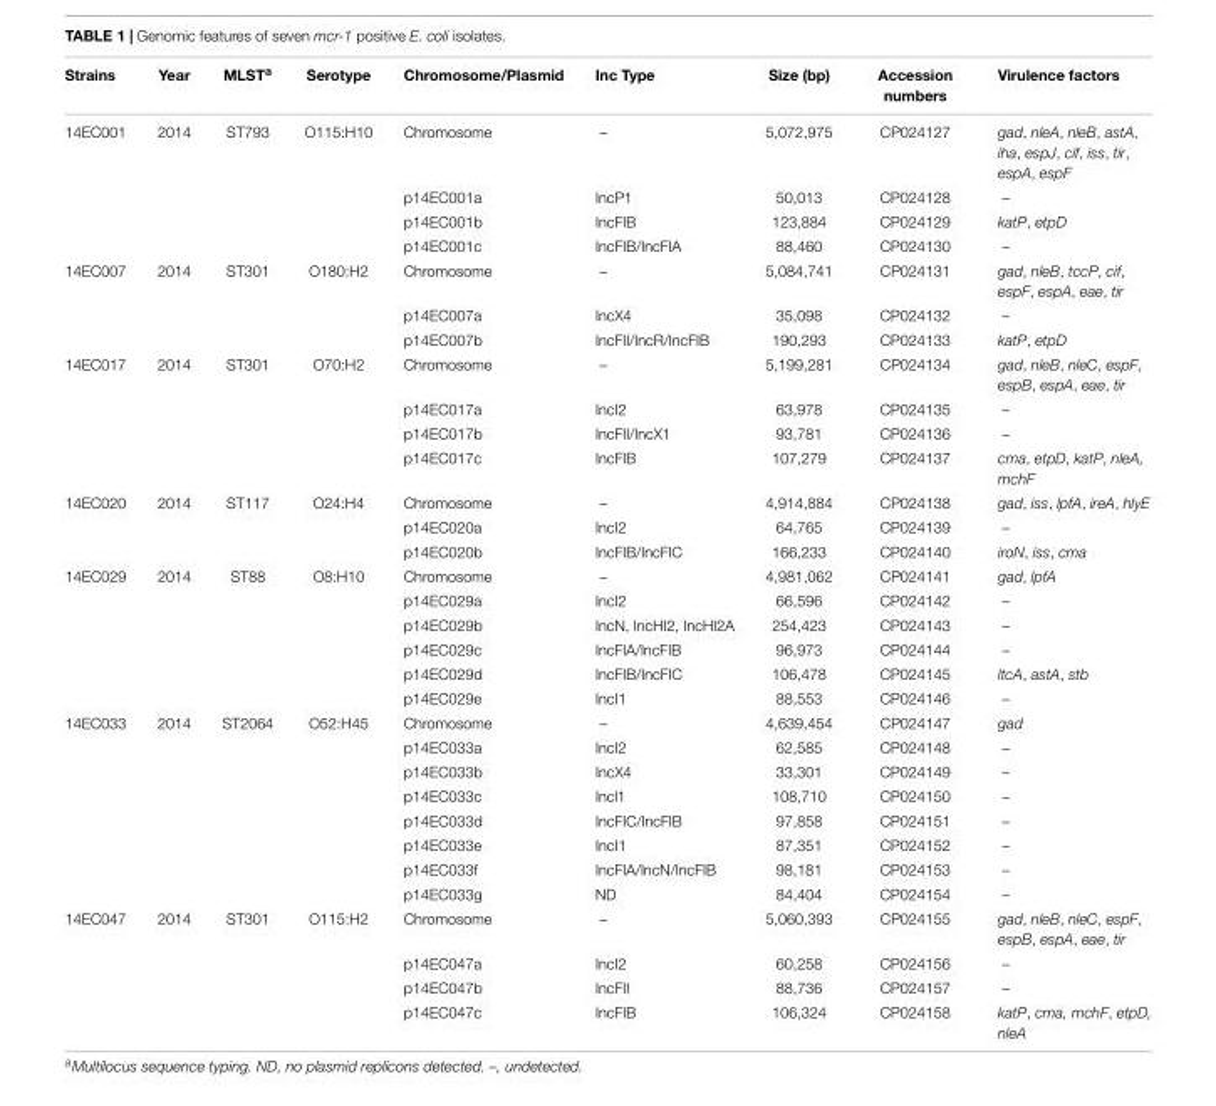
<table><thead><tr><td>Strains</td><td>Year</td><td>MLST<sup>a</sup></td><td>Serotype</td><td>Chromosome/Plasmid</td><td>Inc Type</td><td>Size (bp)</td><td>Accession numbers</td><td>Virulence factors</td></tr></thead><tbody><tr><td rowspan="4">14EC001</td><td>2014</td><td>ST793</td><td>O115:H10</td><td>Chromosome</td><td>–</td><td>5,072,975</td><td>CP024127</td><td>gad, nleA, nleB, astA, iha, espJ, cif, iss, tir, espA, espF</td></tr><tr><td></td><td></td><td></td><td>p14EC001a</td><td>IncP1</td><td>50,013</td><td>CP024128</td><td>–</td></tr><tr><td></td><td></td><td></td><td>p14EC001b</td><td>IncFIB</td><td>123,884</td><td>CP024129</td><td>katP, etpD</td></tr><tr><td></td><td></td><td></td><td>p14EC001c</td><td>IncFIB/IncFIA</td><td>88,460</td><td>CP024130</td><td>–</td></tr><tr><td rowspan="3">14EC007</td><td>2014</td><td>ST301</td><td>O180:H2</td><td>Chromosome</td><td>–</td><td>5,084,741</td><td>CP024131</td><td>gad, nleB, tccP, cif, espF, espA, eae, tir</td></tr><tr><td></td><td></td><td></td><td>p14EC007a</td><td>IncX4</td><td>35,098</td><td>CP024132</td><td>–</td></tr><tr><td></td><td></td><td></td><td>p14EC007b</td><td>IncFII/IncR/IncFIB</td><td>190,293</td><td>CP024133</td><td>katP, etpD</td></tr><tr><td rowspan="4">14EC017</td><td>2014</td><td>ST301</td><td>O70:H2</td><td>Chromosome</td><td>–</td><td>5,199,281</td><td>CP024134</td><td>gad, nleB, nleC, espF, espB, espA, eae, tir</td></tr><tr><td></td><td></td><td></td><td>p14EC017a</td><td>IncI2</td><td>63,978</td><td>CP024135</td><td>–</td></tr><tr><td></td><td></td><td></td><td>p14EC017b</td><td>IncFII/IncX1</td><td>93,781</td><td>CP024136</td><td>–</td></tr><tr><td></td><td></td><td></td><td>p14EC017c</td><td>IncFIB</td><td>107,279</td><td>CP024137</td><td>cma, etpD, katP, nleA, mchF</td></tr><tr><td rowspan="3">14EC020</td><td>2014</td><td>ST117</td><td>O24:H4</td><td>Chromosome</td><td>–</td><td>4,914,884</td><td>CP024138</td><td>gad, iss, lpfA, ireA, hlyE</td></tr><tr><td></td><td></td><td></td><td>p14EC020a</td><td>IncI2</td><td>64,765</td><td>CP024139</td><td>–</td></tr><tr><td></td><td></td><td></td><td>p14EC020b</td><td>IncFIB/IncFIC</td><td>166,233</td><td>CP024140</td><td>iroN, iss, cma</td></tr><tr><td rowspan="6">14EC029</td><td>2014</td><td>ST88</td><td>O8:H10</td><td>Chromosome</td><td>–</td><td>4,981,062</td><td>CP024141</td><td>gad, lpfA</td></tr><tr><td></td><td></td><td></td><td>p14EC029a</td><td>IncI2</td><td>66,596</td><td>CP024142</td><td>–</td></tr><tr><td></td><td></td><td></td><td>p14EC029b</td><td>IncN, IncHI2, IncHI2A</td><td>254,423</td><td>CP024143</td><td>–</td></tr><tr><td></td><td></td><td></td><td>p14EC029c</td><td>IncFIA/IncFIB</td><td>96,973</td><td>CP024144</td><td>–</td></tr><tr><td></td><td></td><td></td><td>p14EC029d</td><td>IncFIB/IncFIC</td><td>106,478</td><td>CP024145</td><td>ltcA, astA, stb</td></tr><tr><td></td><td></td><td></td><td>p14EC029e</td><td>IncI1</td><td>88,553</td><td>CP024146</td><td>–</td></tr><tr><td rowspan="8">14EC033</td><td>2014</td><td>ST2064</td><td>O52:H45</td><td>Chromosome</td><td>–</td><td>4,639,454</td><td>CP024147</td><td>gad</td></tr><tr><td></td><td></td><td></td><td>p14EC033a</td><td>IncI2</td><td>62,585</td><td>CP024148</td><td>–</td></tr><tr><td></td><td></td><td></td><td>p14EC033b</td><td>IncX4</td><td>33,301</td><td>CP024149</td><td>–</td></tr><tr><td></td><td></td><td></td><td>p14EC033c</td><td>Incl1</td><td>108,710</td><td>CP024150</td><td>–</td></tr><tr><td></td><td></td><td></td><td>p14EC033d</td><td>IncFIC/IncFIB</td><td>97,858</td><td>CP024151</td><td>–</td></tr><tr><td></td><td></td><td></td><td>p14EC033e</td><td>IncI1</td><td>87,351</td><td>CP024152</td><td>–</td></tr><tr><td></td><td></td><td></td><td>p14EC033f</td><td>IncFIA/IncN/IncFIB</td><td>98,181</td><td>CP024153</td><td>–</td></tr><tr><td></td><td></td><td></td><td>p14EC033g</td><td>ND</td><td>84,404</td><td>CP024154</td><td>–</td></tr><tr><td rowspan="4">14EC047</td><td>2014</td><td>ST301</td><td>O115:H2</td><td>Chromosome</td><td>–</td><td>5,060,393</td><td>CP024155</td><td>gad, nleB, nleC, espF, espB, espA, eae, tir</td></tr><tr><td></td><td></td><td></td><td>p14EC047a</td><td>IncI2</td><td>60,258</td><td>CP024156</td><td>–</td></tr><tr><td></td><td></td><td></td><td>p14EC047b</td><td>IncFII</td><td>88,736</td><td>CP024157</td><td>–</td></tr><tr><td></td><td></td><td></td><td>p14EC047c</td><td>IncFIB</td><td>106,324</td><td>CP024158</td><td>katP, cma, mchF, etpD, nleA</td></tr></tbody></table>